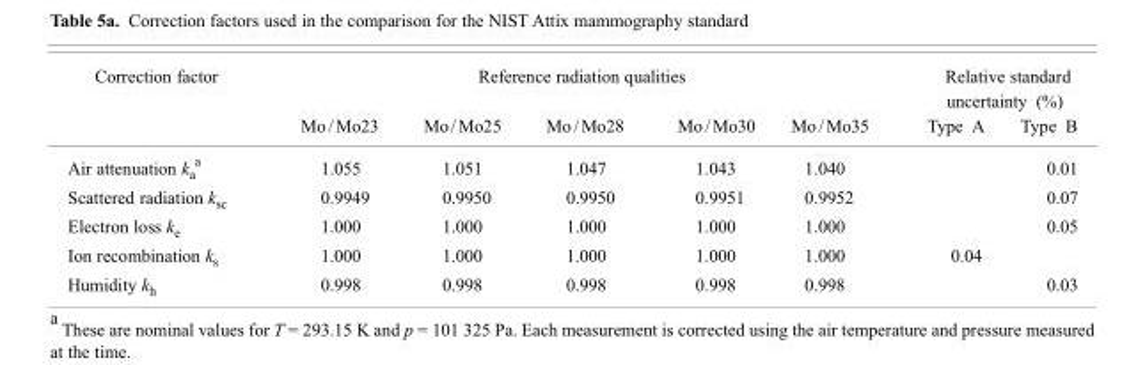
<table><thead><tr><td rowspan="2">Correction factor</td><td colspan="5">Reference radiation qualities</td><td colspan="2">Relative standard uncertainty (%)</td></tr><tr><td>Mo/Mo23</td><td>Mo/Mo25</td><td>Mo/Mo28</td><td>Mo/Mo30</td><td>Mo/Mo35</td><td>Type A</td><td>Type B</td></tr></thead><tbody><tr><td>Air attenuation k<sub>a</sub> <sup>a</sup></td><td>1.055</td><td>1.051</td><td>1.047</td><td>1.043</td><td>1.040</td><td></td><td>0.01</td></tr><tr><td>Scattered radiation k<sub>sc</sub></td><td>0.9949</td><td>0.9950</td><td>0.9950</td><td>0.9951</td><td>0.9952</td><td></td><td>0.07</td></tr><tr><td>Electron loss k<sub>e</sub></td><td>1.000</td><td>1.000</td><td>1.000</td><td>1.000</td><td>1.000</td><td></td><td>0.05</td></tr><tr><td>Ion recombination k<sub>s</sub></td><td>1.000</td><td>1.000</td><td>1.000</td><td>1.000</td><td>1.000</td><td>0.04</td><td></td></tr><tr><td>Humidity k<sub>h</sub></td><td>0.998</td><td>0.998</td><td>0.998</td><td>0.998</td><td>0.998</td><td></td><td>0.03</td></tr></tbody></table>